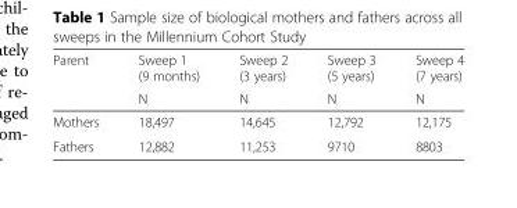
<table><thead><tr><td rowspan="2">Parent</td><td rowspan="2">Sweep 1 (9 months) N</td><td rowspan="2">Sweep 2 (3 years) N</td><td rowspan="2">Sweep 3 (5 years) N</td><td rowspan="2">Sweep 4 (7 years) N</td></tr><tr></tr></thead><tbody><tr><td>Mothers</td><td>18,497</td><td>14,645</td><td>12,792</td><td>12,175</td></tr><tr><td>Fathers</td><td>12,882</td><td>11,253</td><td>9710</td><td>8803</td></tr></tbody></table>